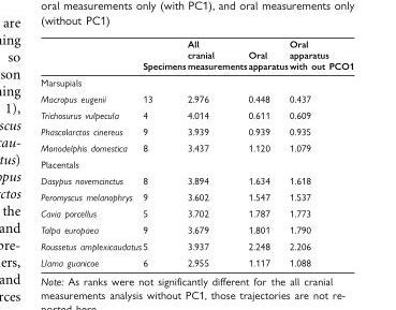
<table><thead><tr><td></td><td>Specimens</td><td>All cranial measurements</td><td>Oral apparatus</td><td>Oral apparatus with out PCO1</td></tr></thead><tbody><tr><td colspan="5">Marsupials</td></tr><tr><td>Macropus eugenii</td><td>13</td><td>2.976</td><td>0.448</td><td>0.437</td></tr><tr><td>Trichosurus vulpecula</td><td>4</td><td>4.014</td><td>0.611</td><td>0.609</td></tr><tr><td>Phascolarctos cinereus</td><td>9</td><td>3.939</td><td>0.939</td><td>0.935</td></tr><tr><td>Monodelphis domestica</td><td>8</td><td>3.437</td><td>1.120</td><td>1.079</td></tr><tr><td colspan="5">Placentals</td></tr><tr><td>Dasypus novemcinctus</td><td>8</td><td>3.894</td><td>1.634</td><td>1.618</td></tr><tr><td>Peromyscus melanophrys</td><td>9</td><td>3.602</td><td>1.547</td><td>1.537</td></tr><tr><td>Cavia porcellus</td><td>5</td><td>3.702</td><td>1.787</td><td>1.773</td></tr><tr><td>Talpa europaea</td><td>9</td><td>3.679</td><td>1.801</td><td>1.790</td></tr><tr><td>Roussetus amplexicaudatus</td><td>5</td><td>3.937</td><td>2.248</td><td>2.206</td></tr><tr><td>Llama guanicoe</td><td>6</td><td>2.955</td><td>1.117</td><td>1.088</td></tr></tbody></table>